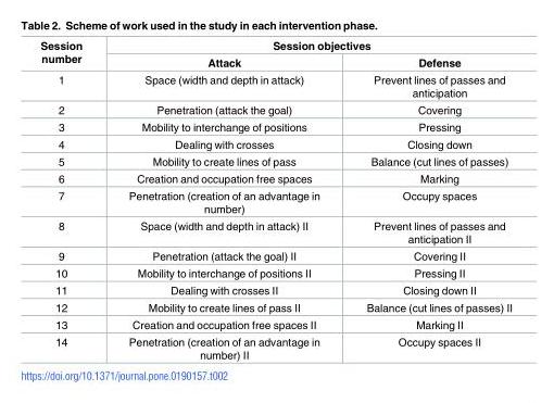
<table><thead><tr><td rowspan="2">Session number</td><td colspan="2">Session objectives</td></tr><tr><td>Attack</td><td>Defense</td></tr></thead><tbody><tr><td>1</td><td>Space (width and depth in attack)</td><td>Prevent lines of passes and anticipation</td></tr><tr><td>2</td><td>Penetration (attack the goal)</td><td>Covering</td></tr><tr><td>3</td><td>Mobility to interchange of positions</td><td>Pressing</td></tr><tr><td>4</td><td>Dealing with crosses</td><td>Closing down</td></tr><tr><td>5</td><td>Mobility to create lines of pass</td><td>Balance (cut lines of passes)</td></tr><tr><td>6</td><td>Creation and occupation free spaces</td><td>Marking</td></tr><tr><td>7</td><td>Penetration (creation of an advantage in number)</td><td>Occupy spaces</td></tr><tr><td>8</td><td>Space (width and depth in attack) II</td><td>Prevent lines of passes and anticipation II</td></tr><tr><td>9</td><td>Penetration (attack the goal) II</td><td>Covering II</td></tr><tr><td>10</td><td>Mobility to interchange of positions II</td><td>Pressing II</td></tr><tr><td>11</td><td>Dealing with crosses II</td><td>Closing down II</td></tr><tr><td>12</td><td>Mobility to create lines of pass II</td><td>Balance (cut lines of passes) II</td></tr><tr><td>13</td><td>Creation and occupation free spaces II</td><td>Marking II</td></tr><tr><td>14</td><td>Penetration (creation of an advantage in number) II</td><td>Occupy spaces II</td></tr></tbody></table>